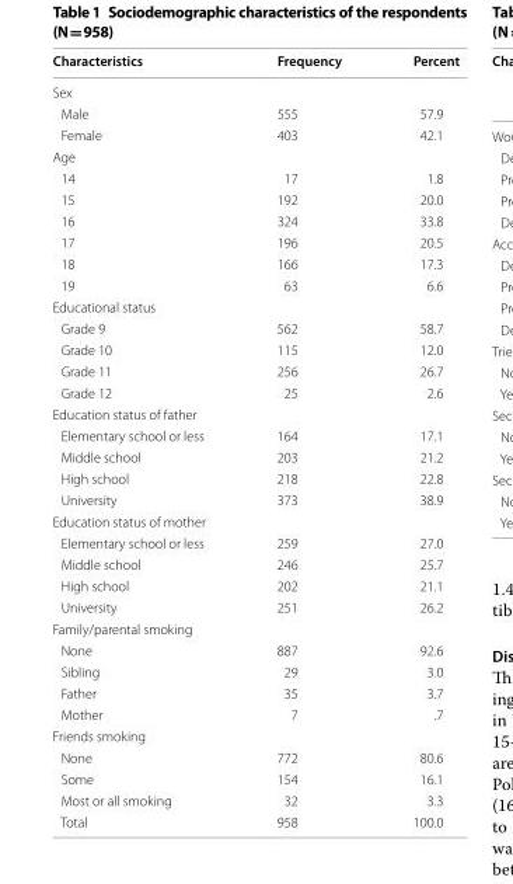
<table><thead><tr><td>Characteristics</td><td>Frequency</td><td>Percent</td></tr></thead><tbody><tr><td colspan="3">Sex</td></tr><tr><td>Male</td><td>555</td><td>57.9</td></tr><tr><td>Female</td><td>403</td><td>42.1</td></tr><tr><td colspan="3">Age</td></tr><tr><td>14</td><td>17</td><td>1.8</td></tr><tr><td>15</td><td>192</td><td>20.0</td></tr><tr><td>16</td><td>324</td><td>33.8</td></tr><tr><td>17</td><td>196</td><td>20.5</td></tr><tr><td>18</td><td>166</td><td>17.3</td></tr><tr><td>19</td><td>63</td><td>6.6</td></tr><tr><td colspan="3">Educational status</td></tr><tr><td>Grade 9</td><td>562</td><td>58.7</td></tr><tr><td>Grade 10</td><td>115</td><td>12.0</td></tr><tr><td>Grade 11</td><td>256</td><td>26.7</td></tr><tr><td>Grade 12</td><td>25</td><td>2.6</td></tr><tr><td colspan="3">Education status of father</td></tr><tr><td>Elementary school or less</td><td>164</td><td>17.1</td></tr><tr><td>Middle school</td><td>203</td><td>21.2</td></tr><tr><td>High school</td><td>218</td><td>22.8</td></tr><tr><td>University</td><td>373</td><td>38.9</td></tr><tr><td colspan="3">Education status of mother</td></tr><tr><td>Elementary school or less</td><td>259</td><td>27.0</td></tr><tr><td>Middle school</td><td>246</td><td>25.7</td></tr><tr><td>High school</td><td>202</td><td>21.1</td></tr><tr><td>University</td><td>251</td><td>26.2</td></tr><tr><td colspan="3">Family/parental smoking</td></tr><tr><td>None</td><td>887</td><td>92.6</td></tr><tr><td>Sibling</td><td>29</td><td>3.0</td></tr><tr><td>Father</td><td>35</td><td>3.7</td></tr><tr><td>Mother</td><td>7</td><td>.7</td></tr><tr><td colspan="3">Friends smoking</td></tr><tr><td>None</td><td>772</td><td>80.6</td></tr><tr><td>Some</td><td>154</td><td>16.1</td></tr><tr><td>Most or all smoking</td><td>32</td><td>3.3</td></tr><tr><td>Total</td><td>958</td><td>100.0</td></tr></tbody></table>